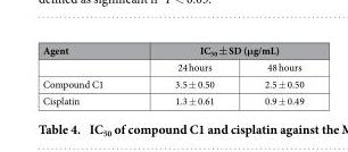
<table><thead><tr><td rowspan="2">Agent</td><td colspan="2">IC<sub>50</sub> ± SD (μg/mL)</td></tr><tr><td>24 hours</td><td>48 hours</td></tr></thead><tbody><tr><td>Compound C1</td><td>3.5 ± 0.50</td><td>2.5 ± 0.50</td></tr><tr><td>Cisplatin</td><td>1.3 ± 0.61</td><td>0.9 ± 0.49</td></tr></tbody></table>